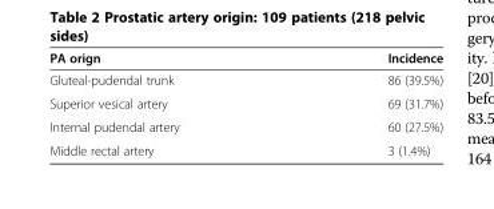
<table><thead><tr><td>PA orign</td><td>Incidence</td></tr></thead><tbody><tr><td>Gluteal-pudendal trunk</td><td>86 (39.5%)</td></tr><tr><td>Superior vesical artery</td><td>69 (31.7%)</td></tr><tr><td>Internal pudendal artery</td><td>60 (27.5%)</td></tr><tr><td>Middle rectal artery</td><td>3 (1.4%)</td></tr></tbody></table>